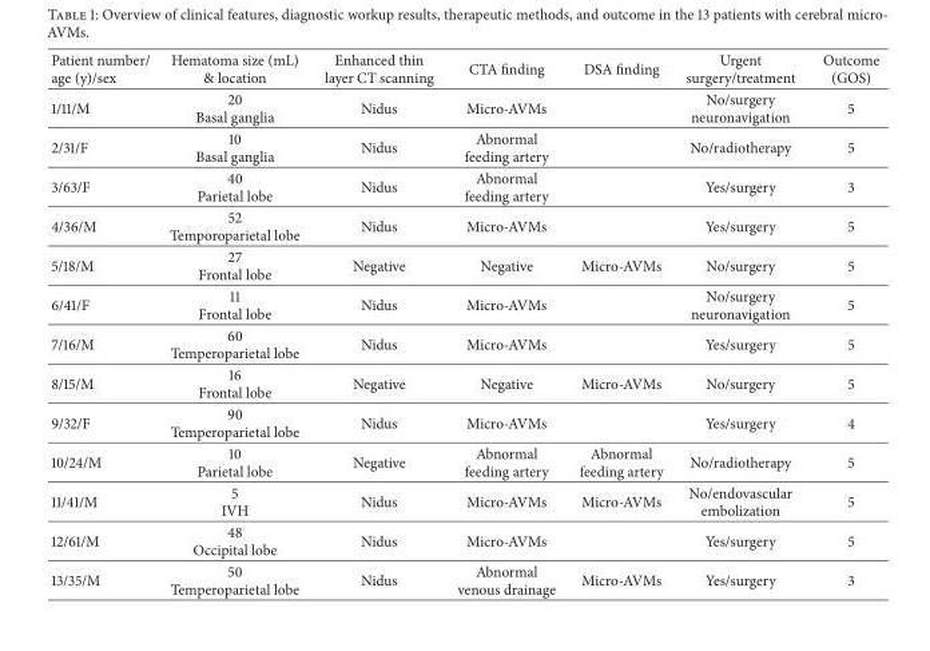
<table><thead><tr><td>Patient number/ age (y)/sex</td><td>Hematoma size (mL) &amp; location</td><td>Enhanced thin layer CT scanning</td><td>CTA finding</td><td>DSA finding</td><td>Urgent surgery/treatment</td><td>Outcome (GOS)</td></tr></thead><tbody><tr><td>1/11/M</td><td>20 Basal ganglia</td><td>Nidus</td><td>Micro-AVMs</td><td></td><td>No/surgery neuronavigation</td><td>5</td></tr><tr><td>2/31/F</td><td>10 Basal ganglia</td><td>Nidus</td><td>Abnormal feeding artery</td><td></td><td>No/radiotherapy</td><td>5</td></tr><tr><td>3/63/F</td><td>40 Parietal lobe</td><td>Nidus</td><td>Abnormal feeding artery</td><td></td><td>Yes/surgery</td><td>3</td></tr><tr><td>4/36/M</td><td>52 Temporoparietal lobe</td><td>Nidus</td><td>Micro-AVMs</td><td></td><td>Yes/surgery</td><td>5</td></tr><tr><td>5/18/M</td><td>27 Frontal lobe</td><td>Negative</td><td>Negative</td><td>Micro-AVMs</td><td>No/surgery</td><td>5</td></tr><tr><td>6/41/F</td><td>11 Frontal lobe</td><td>Nidus</td><td>Micro-AVMs</td><td></td><td>No/surgery neuronavigation</td><td>5</td></tr><tr><td>7/16/M</td><td>60 Temperoparietal lobe</td><td>Nidus</td><td>Micro-AVMs</td><td></td><td>Yes/surgery</td><td>5</td></tr><tr><td>8/15/M</td><td>16 Frontal lobe</td><td>Negative</td><td>Negative</td><td>Micro-AVMs</td><td>No/surgery</td><td>5</td></tr><tr><td>9/32/F</td><td>90 Temperoparietal lobe</td><td>Nidus</td><td>Micro-AVMs</td><td></td><td>Yes/surgery</td><td>4</td></tr><tr><td>10/24/M</td><td>10 Parietal lobe</td><td>Negative</td><td>Abnormal feeding artery</td><td>Abnormal feeding artery</td><td>No/radiotherapy</td><td>5</td></tr><tr><td>11/41/M</td><td>5 IVH</td><td>Nidus</td><td>Micro-AVMs</td><td>Micro-AVMs</td><td>No/endovascular embolization</td><td>5</td></tr><tr><td>12/61/M</td><td>48 Occipital lobe</td><td>Nidus</td><td>Micro-AVMs</td><td></td><td>Yes/surgery</td><td>5</td></tr><tr><td>13/35/M</td><td>50 Temperoparietal lobe</td><td>Nidus</td><td>Abnormal venous drainage</td><td>Micro-AVMs</td><td>Yes/surgery</td><td>3</td></tr></tbody></table>